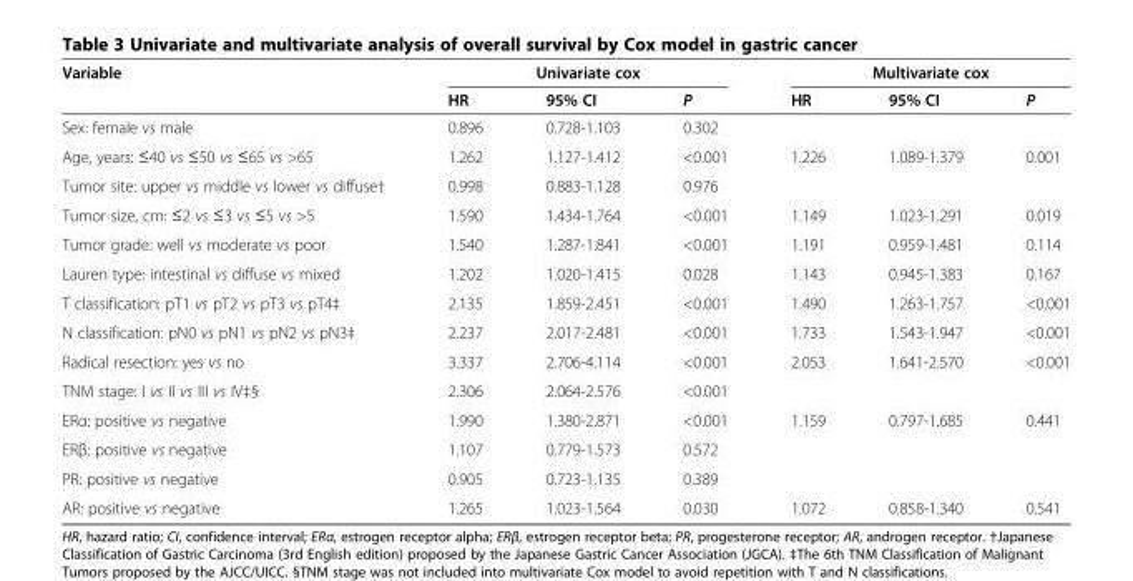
<table><thead><tr><td rowspan="2">Variable</td><td colspan="3">Univariate cox</td><td colspan="3">Multivariate cox</td></tr><tr><td>HR</td><td>95% CI</td><td>P</td><td>HR</td><td>95% CI</td><td>P</td></tr></thead><tbody><tr><td>Sex: female vs male</td><td>0.896</td><td>0.728-1.103</td><td>0.302</td><td></td><td></td><td></td></tr><tr><td>Age, years: ≤40 vs ≤50 vs ≤65 vs &gt;65</td><td>1.262</td><td>1.127-1.412</td><td>&lt;0.001</td><td>1.226</td><td>1.089-1.379</td><td>0.001</td></tr><tr><td>Tumor site: upper vs middle vs lower vs diffuse†</td><td>0.998</td><td>0.883-1.128</td><td>0.976</td><td></td><td></td><td></td></tr><tr><td>Tumor size, cm: ≤2 vs ≤3 vs ≤5 vs &gt;5</td><td>1.590</td><td>1.434-1.764</td><td>&lt;0.001</td><td>1.149</td><td>1.023-1.291</td><td>0.019</td></tr><tr><td>Tumor grade: well vs moderate vs poor</td><td>1.540</td><td>1.287-1.841</td><td>&lt;0.001</td><td>1.191</td><td>0.959-1.481</td><td>0.114</td></tr><tr><td>Lauren type: intestinal vs diffuse vs mixed</td><td>1.202</td><td>1.020-1.415</td><td>0.028</td><td>1.143</td><td>0.945-1.383</td><td>0.167</td></tr><tr><td>T classification: pT1 vs pT2 vs pT3 vs pT4‡</td><td>2.135</td><td>1.859-2.451</td><td>&lt;0.001</td><td>1.490</td><td>1.263-1.757</td><td>&lt;0.001</td></tr><tr><td>N classification: pN0 vs pN1 vs pN2 vs pN3‡</td><td>2.237</td><td>2.017-2.481</td><td>&lt;0.001</td><td>1.733</td><td>1.543-1.947</td><td>&lt;0.001</td></tr><tr><td>Radical resection: yes vs no</td><td>3.337</td><td>2.706-4.114</td><td>&lt;0.001</td><td>2.053</td><td>1.641-2.570</td><td>&lt;0.001</td></tr><tr><td>TNM stage: I vs II vs III vs IV‡§</td><td>2.306</td><td>2.064-2.576</td><td>&lt;0.001</td><td></td><td></td><td></td></tr><tr><td>ERα: positive vs negative</td><td>1.990</td><td>1.380-2.871</td><td>&lt;0.001</td><td>1.159</td><td>0.797-1.685</td><td>0.441</td></tr><tr><td>ERβ: positive vs negative</td><td>1.107</td><td>0.779-1.573</td><td>0.572</td><td></td><td></td><td></td></tr><tr><td>PR: positive vs negative</td><td>0.905</td><td>0.723-1.135</td><td>0.389</td><td></td><td></td><td></td></tr><tr><td>AR: positive vs negative</td><td>1.265</td><td>1.023-1.564</td><td>0.030</td><td>1.072</td><td>0.858-1.340</td><td>0.541</td></tr></tbody></table>